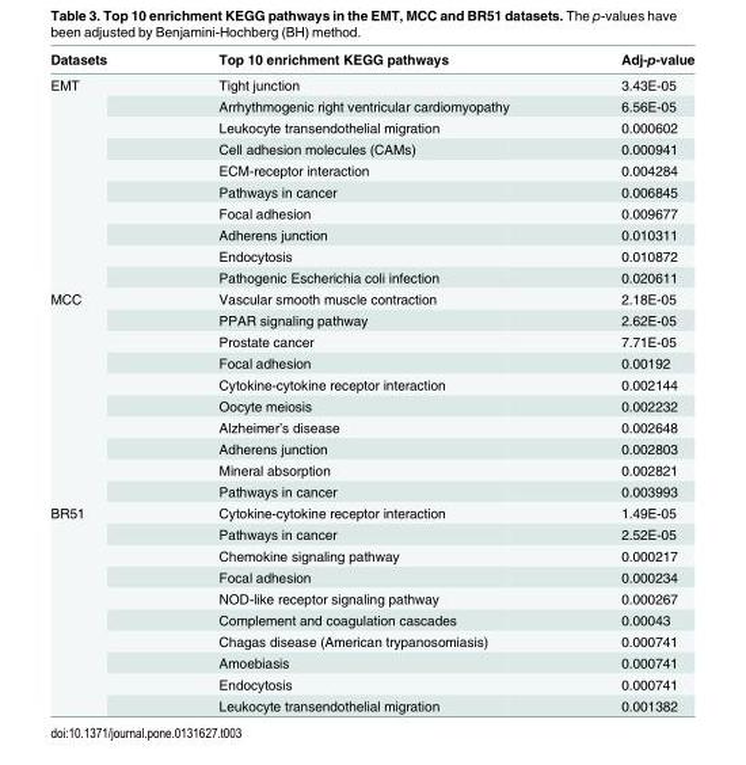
<table><thead><tr><td>Datasets</td><td>Top 10 enrichment KEGG pathways</td><td>Adj-p-value</td></tr></thead><tbody><tr><td rowspan="10">EMT</td><td>Tight junction</td><td>3.43E-05</td></tr><tr><td>Arrhythmogenic right ventricular cardiomyopathy</td><td>6.56E-05</td></tr><tr><td>Leukocyte transendothelial migration</td><td>0.000602</td></tr><tr><td>Cell adhesion molecules (CAMs)</td><td>0.000941</td></tr><tr><td>ECM-receptor interaction</td><td>0.004284</td></tr><tr><td>Pathways in cancer</td><td>0.006845</td></tr><tr><td>Focal adhesion</td><td>0.009677</td></tr><tr><td>Adherens junction</td><td>0.010311</td></tr><tr><td>Endocytosis</td><td>0.010872</td></tr><tr><td>Pathogenic Escherichia coli infection</td><td>0.020611</td></tr><tr><td rowspan="10">MCC</td><td>Vascular smooth muscle contraction</td><td>2.18E-05</td></tr><tr><td>PPAR signaling pathway</td><td>2.62E-05</td></tr><tr><td>Prostate cancer</td><td>7.71E-05</td></tr><tr><td>Focal adhesion</td><td>0.00192</td></tr><tr><td>Cytokine-cytokine receptor interaction</td><td>0.002144</td></tr><tr><td>Oocyte meiosis</td><td>0.002232</td></tr><tr><td>Alzheimer’s disease</td><td>0.002648</td></tr><tr><td>Adherens junction</td><td>0.002803</td></tr><tr><td>Mineral absorption</td><td>0.002821</td></tr><tr><td>Pathways in cancer</td><td>0.003993</td></tr><tr><td rowspan="10">BR51</td><td>Cytokine-cytokine receptor interaction</td><td>1.49E-05</td></tr><tr><td>Pathways in cancer</td><td>2.52E-05</td></tr><tr><td>Chemokine signaling pathway</td><td>0.000217</td></tr><tr><td>Focal adhesion</td><td>0.000234</td></tr><tr><td>NOD-like receptor signaling pathway</td><td>0.000267</td></tr><tr><td>Complement and coagulation cascades</td><td>0.00043</td></tr><tr><td>Chagas disease (American trypanosomiasis)</td><td>0.000741</td></tr><tr><td>Amoebiasis</td><td>0.000741</td></tr><tr><td>Endocytosis</td><td>0.000741</td></tr><tr><td>Leukocyte transendothelial migration</td><td>0.001382</td></tr></tbody></table>